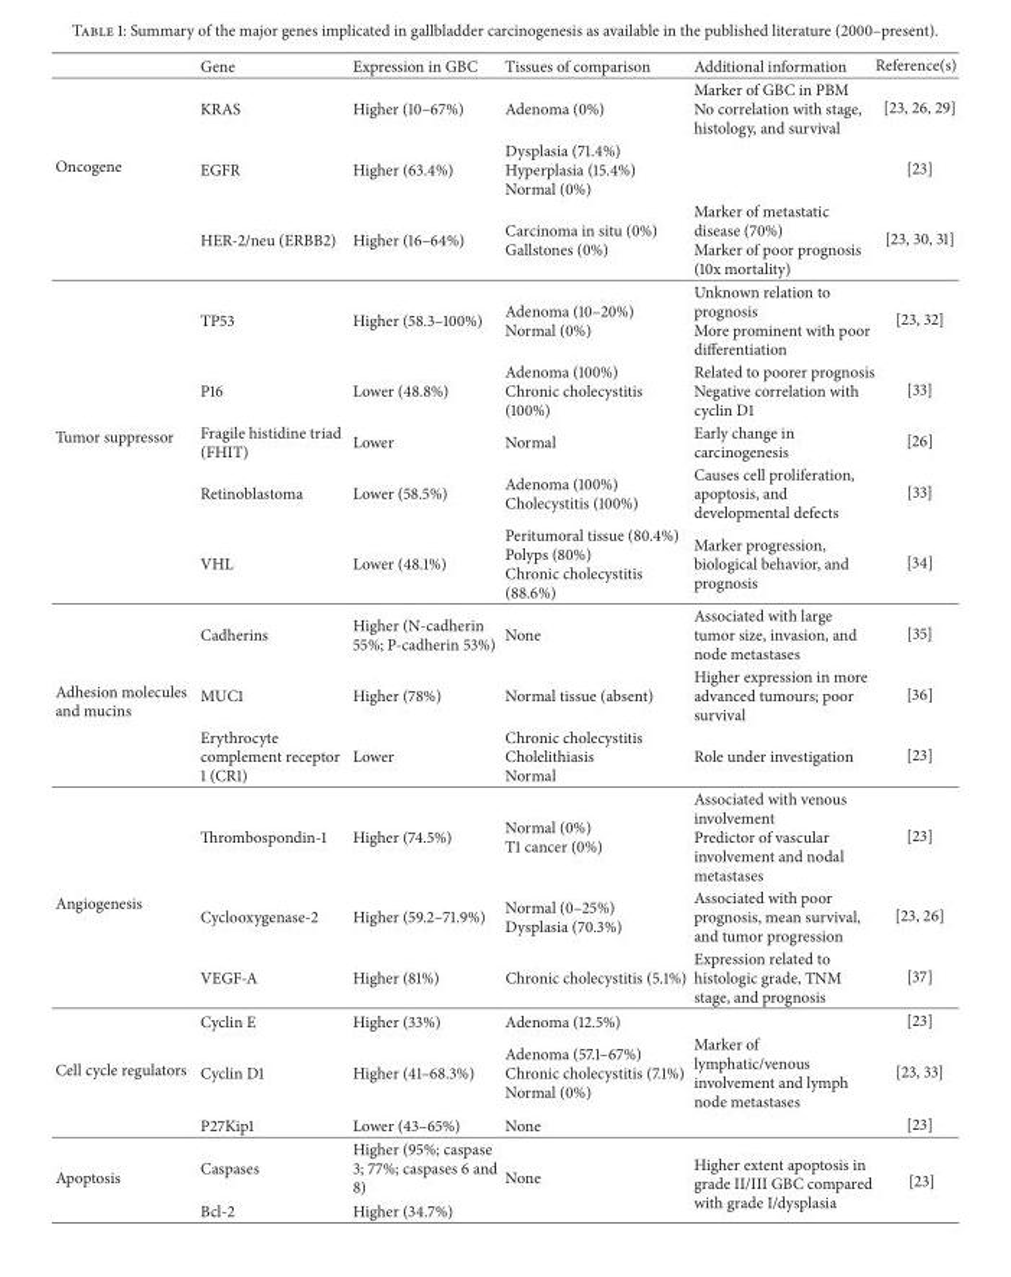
<table><thead><tr><td></td><td>Gene</td><td>Expression in GBC</td><td>Tissues of comparison</td><td>Additional information</td><td>Reference(s)</td></tr></thead><tbody><tr><td rowspan="3">Oncogene</td><td>KRAS</td><td>Higher (10–67%)</td><td>Adenoma (0%)</td><td>Marker of GBC in PBM No correlation with stage, histology, and survival</td><td>[23, 26, 29]</td></tr><tr><td>EGFR</td><td>Higher (63.4%)</td><td>Dysplasia (71.4%) Hyperplasia (15.4%) Normal (0%)</td><td></td><td>[23]</td></tr><tr><td>HER-2/neu (ERBB2)</td><td>Higher (16–64%)</td><td>Carcinoma in situ (0%) Gallstones (0%)</td><td>Marker of metastatic disease (70%) Marker of poor prognosis (10x mortality)</td><td>[23, 30, 31]</td></tr><tr><td rowspan="5">Tumor suppressor</td><td>TP53</td><td>Higher (58.3–100%)</td><td>Adenoma (10–20%) Normal (0%)</td><td>Unknown relation to prognosis More prominent with poor differentiation</td><td>[23, 32]</td></tr><tr><td>P16</td><td>Lower (48.8%)</td><td>Adenoma (100%) Chronic cholecystitis (100%)</td><td>Related to poorer prognosis Negative correlation with cyclin D1</td><td>[33]</td></tr><tr><td>Fragile histidine triad (FHIT)</td><td>Lower</td><td>Normal</td><td>Early change in carcinogenesis</td><td>[26]</td></tr><tr><td>Retinoblastoma</td><td>Lower (58.5%)</td><td>Adenoma (100%) Cholecystitis (100%)</td><td>Causes cell proliferation, apoptosis, and developmental defects</td><td>[33]</td></tr><tr><td>VHL</td><td>Lower (48.1%)</td><td>Peritumoral tissue (80.4%) Polyps (80%) Chronic cholecystitis (88.6%)</td><td>Marker progression, biological behavior, and prognosis</td><td>[34]</td></tr><tr><td rowspan="3">Adhesion molecules and mucins</td><td>Cadherins</td><td>Higher (N-cadherin 55%; P-cadherin 53%)</td><td>None</td><td>Associated with large tumor size, invasion, and node metastases</td><td>[35]</td></tr><tr><td>MUC1</td><td>Higher (78%)</td><td>Normal tissue (absent)</td><td>Higher expression in more advanced tumours; poor survival</td><td>[36]</td></tr><tr><td>Erythrocyte complement receptor 1 (CR1)</td><td>Lower</td><td>Chronic cholecystitis Cholelithiasis Normal</td><td>Role under investigation</td><td>[23]</td></tr><tr><td rowspan="3">Angiogenesis</td><td>Thrombospondin-1</td><td>Higher (74.5%)</td><td>Normal (0%) T1 cancer (0%)</td><td>Associated with venous involvement Predictor of vascular involvement and nodal metastases</td><td>[23]</td></tr><tr><td>Cyclooxygenase-2</td><td>Higher (59.2–71.9%)</td><td>Normal (0–25%) Dysplasia (70.3%)</td><td>Associated with poor prognosis, mean survival, and tumor progression</td><td>[23, 26]</td></tr><tr><td>VEGF-A</td><td>Higher (81%)</td><td>Chronic cholecystitis (5.1%)</td><td>Expression related to histologic grade, TNM stage, and prognosis</td><td>[37]</td></tr><tr><td rowspan="3">Cell cycle regulators</td><td>Cyclin E</td><td>Higher (33%)</td><td>Adenoma (12.5%)</td><td></td><td>[23]</td></tr><tr><td>Cyclin D1</td><td>Higher (41–68.3%)</td><td>Adenoma (57.1–67%) Chronic cholecystitis (7.1%) Normal (0%)</td><td>Marker of lymphatic/venous involvement and lymph node metastases</td><td>[23, 33]</td></tr><tr><td>P27Kip1</td><td>Lower (43–65%)</td><td>None</td><td></td><td>[23]</td></tr><tr><td rowspan="2">Apoptosis</td><td>Caspases</td><td>Higher (95%; caspase 3; 77%; caspases 6 and 8)</td><td rowspan="2">None</td><td rowspan="2">Higher extent apoptosis in grade II/III GBC compared with grade I/dysplasia</td><td rowspan="2">[23]</td></tr><tr><td>Bcl-2</td><td>Higher (34.7%)</td></tr></tbody></table>